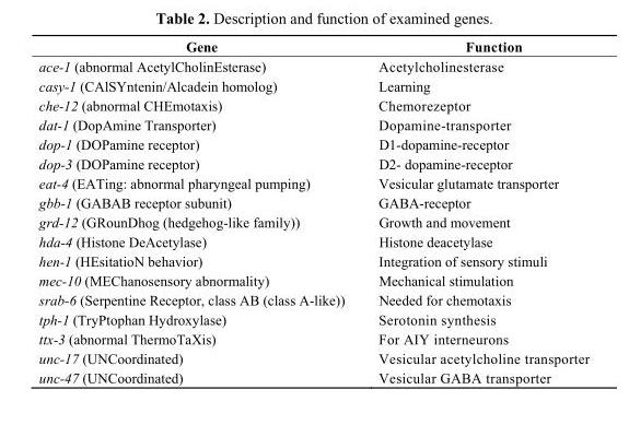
<table><thead><tr><td>Gene</td><td>Function</td></tr></thead><tbody><tr><td>ace-1 (abnormal AcetylCholinEsterase)</td><td>Acetylcholinesterase</td></tr><tr><td>casy-1 (CAlSYntenin/Alcadein homolog)</td><td>Learning</td></tr><tr><td>che-12 (abnormal CHEmotaxis)</td><td>Chemorezeptor</td></tr><tr><td>dat-1 (DopAmine Transporter)</td><td>Dopamine-transporter</td></tr><tr><td>dop-1 (DOPamine receptor)</td><td>D1-dopamine-receptor</td></tr><tr><td>dop-3 (DOPamine receptor)</td><td>D2- dopamine-receptor</td></tr><tr><td>eat-4 (EATing: abnormal pharyngeal pumping)</td><td>Vesicular glutamate transporter</td></tr><tr><td>gbb-1 (GABAB receptor subunit)</td><td>GABA-receptor</td></tr><tr><td>grd-12 (GRounDhog (hedgehog-like family))</td><td>Growth and movement</td></tr><tr><td>hda-4 (Histone DeAcetylase)</td><td>Histone deacetylase</td></tr><tr><td>hen-1 (HEsitatioN behavior)</td><td>Integration of sensory stimuli</td></tr><tr><td>mec-10 (MEChanosensory abnormality)</td><td>Mechanical stimulation</td></tr><tr><td>srab-6 (Serpentine Receptor, class AB (class A-like))</td><td>Needed for chemotaxis</td></tr><tr><td>tph-1 (TryPtophan Hydroxylase)</td><td>Serotonin synthesis</td></tr><tr><td>ttx-3 (abnormal ThermoTaXis)</td><td>For AIY interneurons</td></tr><tr><td>unc-17 (UNCoordinated)</td><td>Vesicular acetylcholine transporter</td></tr><tr><td>unc-47 (UNCoordinated)</td><td>Vesicular GABA transporter</td></tr></tbody></table>